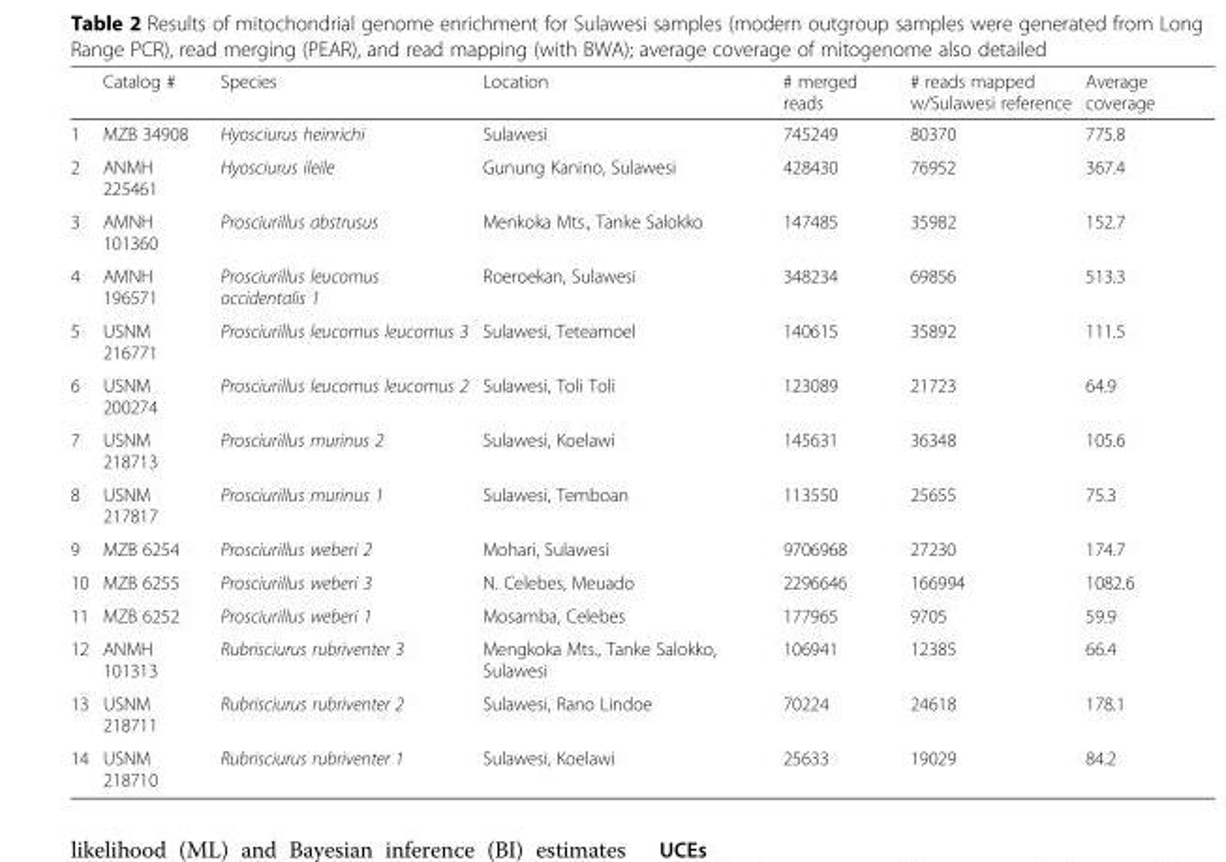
<table><thead><tr><td></td><td>Catalog #</td><td>Species</td><td>Location</td><td># merged reads</td><td># reads mapped w/Sulawesi reference</td><td>Average coverage</td></tr></thead><tbody><tr><td>1</td><td>MZB 34908</td><td>Hyosciurus heinrichi</td><td>Sulawesi</td><td>745249</td><td>80370</td><td>775.8</td></tr><tr><td>2</td><td>ANMH 225461</td><td>Hyosciurus ileile</td><td>Gunung Kanino, Sulawesi</td><td>428430</td><td>76952</td><td>367.4</td></tr><tr><td>3</td><td>AMNH 101360</td><td>Prosciurillus abstrusus</td><td>Menkoka Mts., Tanke Salokko</td><td>147485</td><td>35982</td><td>152.7</td></tr><tr><td>4</td><td>AMNH 196571</td><td>Prosciurillus leucomus occidentalis 1</td><td>Roeroekan, Sulawesi</td><td>348234</td><td>69856</td><td>513.3</td></tr><tr><td>5</td><td>USNM 216771</td><td>Prosciurillus leucomus leucomus 3</td><td>Sulawesi, Teteamoel</td><td>140615</td><td>35892</td><td>111.5</td></tr><tr><td>6</td><td>USNM 200274</td><td>Prosciurillus leucomus leucomus 2</td><td>Sulawesi, Toli Toli</td><td>123089</td><td>21723</td><td>64.9</td></tr><tr><td>7</td><td>USNM 218713</td><td>Prosciurillus murinus 2</td><td>Sulawesi, Koelawi</td><td>145631</td><td>36348</td><td>105.6</td></tr><tr><td>8</td><td>USNM 217817</td><td>Prosciurillus murinus 1</td><td>Sulawesi, Temboan</td><td>113550</td><td>25655</td><td>75.3</td></tr><tr><td>9</td><td>MZB 6254</td><td>Prosciurillus weberi 2</td><td>Mohari, Sulawesi</td><td>9706968</td><td>27230</td><td>174.7</td></tr><tr><td>10</td><td>MZB 6255</td><td>Prosciurillus weberi 3</td><td>N. Celebes, Meuado</td><td>2296646</td><td>166994</td><td>1082.6</td></tr><tr><td>11</td><td>MZB 6252</td><td>Prosciurillus weberi 1</td><td>Mosamba, Celebes</td><td>177965</td><td>9705</td><td>59.9</td></tr><tr><td>12</td><td>ANMH 101313</td><td>Rubrisciurus rubriventer 3</td><td>Mengkoka Mts., Tanke Salokko, Sulawesi</td><td>106941</td><td>12385</td><td>66.4</td></tr><tr><td>13</td><td>USNM 218711</td><td>Rubrisciurus rubriventer 2</td><td>Sulawesi, Rano Lindoe</td><td>70224</td><td>24618</td><td>178.1</td></tr><tr><td>14</td><td>USNM 218710</td><td>Rubrisciurus rubriventer 1</td><td>Sulawesi, Koelawi</td><td>25633</td><td>19029</td><td>84.2</td></tr></tbody></table>